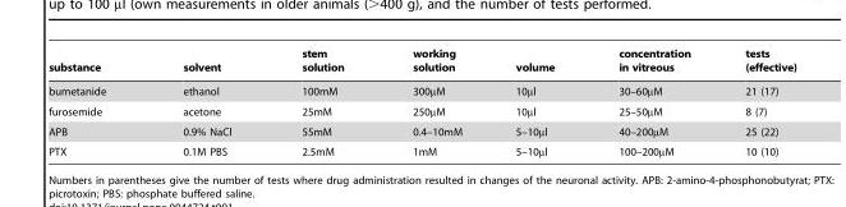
<table><thead><tr><td>substance</td><td>solvent</td><td>stem solution</td><td>working solution</td><td>volume</td><td>concentration in vitreous</td><td>tests (effective)</td></tr></thead><tbody><tr><td>bumetanide</td><td>ethanol</td><td>100mM</td><td>300µM</td><td>10µl</td><td>30–60µM</td><td>21 (17)</td></tr><tr><td>furosemide</td><td>acetone</td><td>25mM</td><td>250µM</td><td>10µl</td><td>25–50µM</td><td>8 (7)</td></tr><tr><td>APB</td><td>0.9% NaCl</td><td>55mM</td><td>0.4–10mM</td><td>5–10µl</td><td>40–200µM</td><td>25 (22)</td></tr><tr><td>PTX</td><td>0.1M PBS</td><td>2.5mM</td><td>1mM</td><td>5–10µl</td><td>100–200µM</td><td>10 (10)</td></tr></tbody></table>